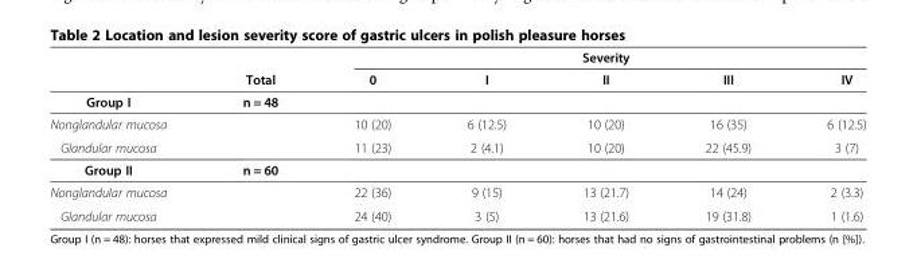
<table><thead><tr><td rowspan="3">Group I</td><td rowspan="3">Total n = 48</td><td rowspan="3">0</td><td rowspan="3">I</td><td rowspan="3">Severity II</td><td rowspan="3">III</td><td rowspan="3">IV</td></tr><tr></tr><tr></tr></thead><tbody><tr><td>Nonglandular mucosa</td><td></td><td>10 (20)</td><td>6 (12.5)</td><td>10 (20)</td><td>16 (35)</td><td>6 (12.5)</td></tr><tr><td>Glandular mucosa</td><td></td><td>11 (23)</td><td>2 (4.1)</td><td>10 (20)</td><td>22 (45.9)</td><td>3 (7)</td></tr><tr><td>Group II</td><td>n = 60</td><td></td><td></td><td></td><td></td><td></td></tr><tr><td>Nonglandular mucosa</td><td></td><td>22 (36)</td><td>9 (15)</td><td>13 (21.7)</td><td>14 (24)</td><td>2 (3.3)</td></tr><tr><td>Glandular mucosa</td><td></td><td>24 (40)</td><td>3 (5)</td><td>13 (21.6)</td><td>19 (31.8)</td><td>1 (1.6)</td></tr></tbody></table>